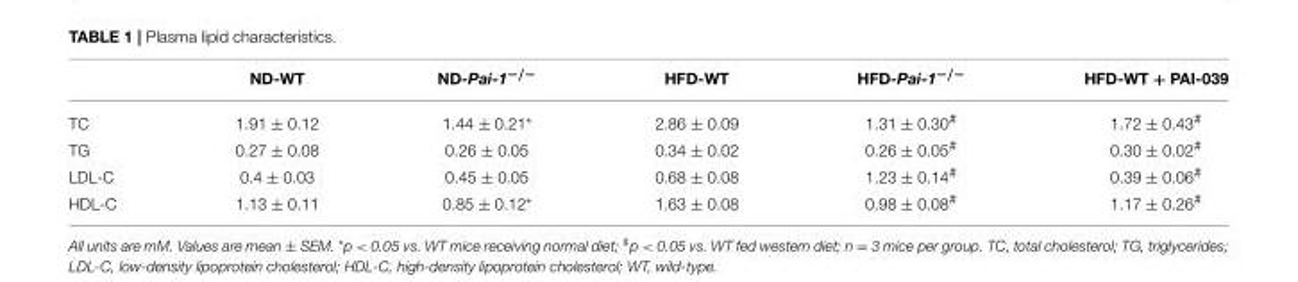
<table><thead><tr><td></td><td>ND-WT</td><td>ND-Pai-1<sup>−/−</sup></td><td>HFD-WT</td><td>HFD-Pai-1<sup>−/−</sup></td><td>HFD-WT + PAI-039</td></tr></thead><tbody><tr><td>TC</td><td>1.91 ± 0.12</td><td>1.44 ± 0.21*</td><td>2.86 ± 0.09</td><td>1.31 ± 0.30<sup>#</sup></td><td>1.72 ± 0.43<sup>#</sup></td></tr><tr><td>TG</td><td>0.27 ± 0.08</td><td>0.26 ± 0.05</td><td>0.34 ± 0.02</td><td>0.26 ± 0.05<sup>#</sup></td><td>0.30 ± 0.02<sup>#</sup></td></tr><tr><td>LDL-C</td><td>0.4 ± 0.03</td><td>0.45 ± 0.05</td><td>0.68 ± 0.08</td><td>1.23 ± 0.14<sup>#</sup></td><td>0.39 ± 0.06<sup>#</sup></td></tr><tr><td>HDL-C</td><td>1.13 ± 0.11</td><td>0.85 ± 0.12*</td><td>1.63 ± 0.08</td><td>0.98 ± 0.08<sup>#</sup></td><td>1.17 ± 0.26<sup>#</sup></td></tr></tbody></table>